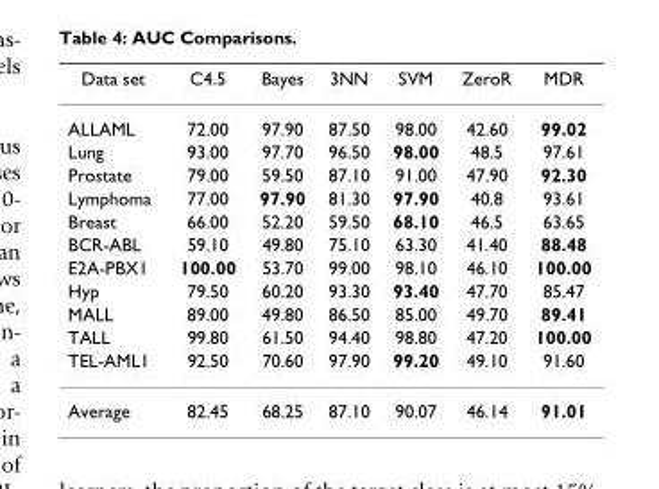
<table><thead><tr><td>Data set</td><td>C4.5</td><td>Bayes</td><td>3NN</td><td>SVM</td><td>ZeroR</td><td>MDR</td></tr></thead><tbody><tr><td>ALLAML</td><td>72.00</td><td>97.90</td><td>87.50</td><td>98.00</td><td>42.60</td><td>99.02</td></tr><tr><td>Lung</td><td>93.00</td><td>97.70</td><td>96.50</td><td>98.00</td><td>48.5</td><td>97.61</td></tr><tr><td>Prostate</td><td>79.00</td><td>59.50</td><td>87.10</td><td>91.00</td><td>47.90</td><td>92.30</td></tr><tr><td>Lymphoma</td><td>77.00</td><td>97.90</td><td>81.30</td><td>97.90</td><td>40.8</td><td>93.61</td></tr><tr><td>Breast</td><td>66.00</td><td>52.20</td><td>59.50</td><td>68.10</td><td>46.5</td><td>63.65</td></tr><tr><td>BCR-ABL</td><td>59.10</td><td>49.80</td><td>75.10</td><td>63.30</td><td>41.40</td><td>88.48</td></tr><tr><td>E2A-PBX1</td><td>100.00</td><td>53.70</td><td>99.00</td><td>98.10</td><td>46.10</td><td>100.00</td></tr><tr><td>Hyp</td><td>79.50</td><td>60.20</td><td>93.30</td><td>93.40</td><td>47.70</td><td>85.47</td></tr><tr><td>MALL</td><td>89.00</td><td>49.80</td><td>86.50</td><td>85.00</td><td>49.70</td><td>89.41</td></tr><tr><td>TALL</td><td>99.80</td><td>61.50</td><td>94.40</td><td>98.80</td><td>47.20</td><td>100.00</td></tr><tr><td>TEL-AML1</td><td>92.50</td><td>70.60</td><td>97.90</td><td>99.20</td><td>49.10</td><td>91.60</td></tr><tr><td>Average</td><td>82.45</td><td>68.25</td><td>87.10</td><td>90.07</td><td>46.14</td><td>91.01</td></tr></tbody></table>